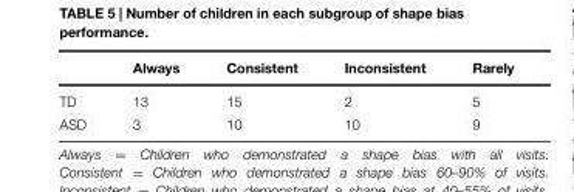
<table><thead><tr><td></td><td>Always</td><td>Consistent</td><td>Inconsistent</td><td>Rarely</td></tr></thead><tbody><tr><td>TD</td><td>13</td><td>15</td><td>2</td><td>5</td></tr><tr><td>ASD</td><td>3</td><td>10</td><td>10</td><td>9</td></tr></tbody></table>